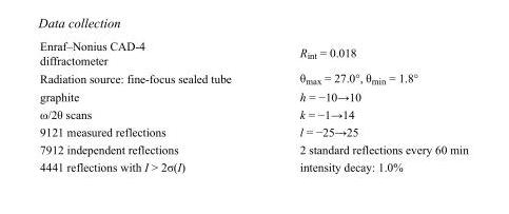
<table><tbody><tr><td>Enraf–Nonius CAD-4 diffractometer</td><td>R<sub>int</sub> = 0.018</td></tr><tr><td>Radiation source: fine-focus sealed tube</td><td>θ<sub>max</sub> = 27.0°, θ<sub>min</sub> = 1.8°</td></tr><tr><td>graphite</td><td>h = −10→10</td></tr><tr><td>ω/2θ scans</td><td>k = −1→14</td></tr><tr><td>9121 measured reflections</td><td>l = −25→25</td></tr><tr><td>7912 independent reflections</td><td>2 standard reflections every 60 min</td></tr><tr><td>4441 reflections with I &gt; 2σ(I)</td><td>intensity decay: 1.0%</td></tr></tbody></table>